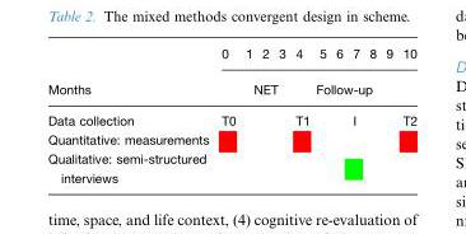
<table><thead><tr><td rowspan="2">Months</td><td rowspan="2">0</td><td>1</td><td>2</td><td>3</td><td>4</td><td>5</td><td>6</td><td>7</td><td>8</td><td>9</td><td rowspan="2">10</td></tr><tr><td colspan="3">NET</td><td colspan="6">Follow-up</td></tr></thead><tbody><tr><td>Data collection</td><td>T0</td><td></td><td></td><td></td><td>T1</td><td></td><td></td><td>I</td><td></td><td></td><td>T2</td></tr><tr><td colspan="12">Quantitative: measurements</td></tr><tr><td>Qualitative: semi-structured interviews</td><td></td><td></td><td></td><td></td><td></td><td></td><td></td><td></td><td></td><td></td><td></td></tr></tbody></table>